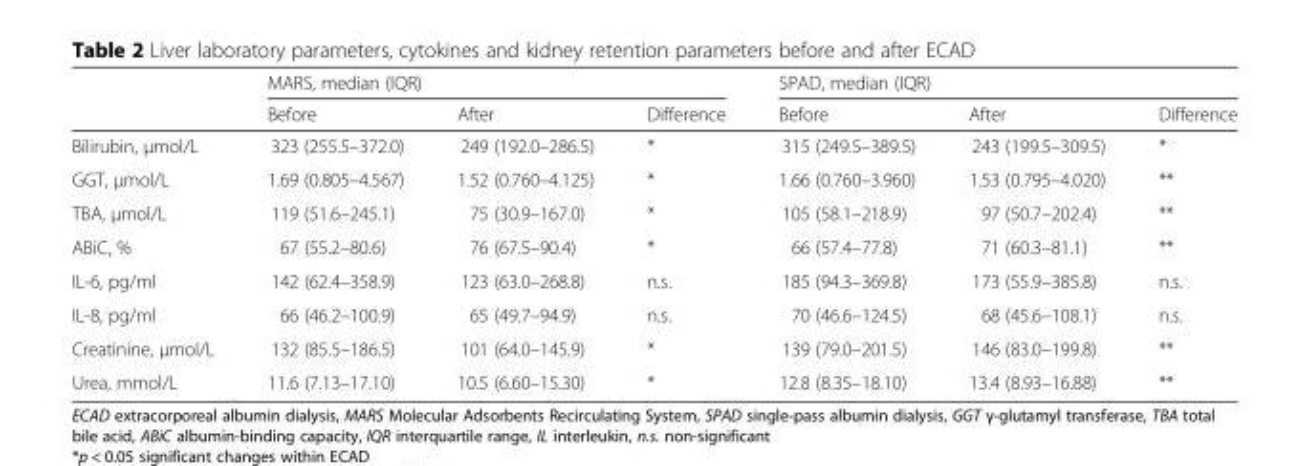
<table><thead><tr><td rowspan="2"></td><td colspan="3">MARS, median (IQR)</td><td colspan="3">SPAD, median (IQR)</td></tr><tr><td>Before</td><td>After</td><td>Difference</td><td>Before</td><td>After</td><td>Difference</td></tr></thead><tbody><tr><td>Bilirubin, μmol/L</td><td>323 (255.5–372.0)</td><td>249 (192.0–286.5)</td><td>*</td><td>315 (249.5–389.5)</td><td>243 (199.5–309.5)</td><td>*</td></tr><tr><td>GGT, μmol/L</td><td>1.69 (0.805–4.567)</td><td>1.52 (0.760–4.125)</td><td>*</td><td>1.66 (0.760–3.960)</td><td>1.53 (0.795–4.020)</td><td>**</td></tr><tr><td>TBA, μmol/L</td><td>119 (51.6–245.1)</td><td>75 (30.9–167.0)</td><td>*</td><td>105 (58.1–218.9)</td><td>97 (50.7–202.4)</td><td>**</td></tr><tr><td>ABiC, %</td><td>67 (55.2–80.6)</td><td>76 (67.5–90.4)</td><td>*</td><td>66 (57.4–77.8)</td><td>71 (60.3–81.1)</td><td>**</td></tr><tr><td>IL-6, pg/ml</td><td>142 (62.4–358.9)</td><td>123 (63.0–268.8)</td><td>n.s.</td><td>185 (94.3–369.8)</td><td>173 (55.9–385.8)</td><td>n.s.</td></tr><tr><td>IL-8, pg/ml</td><td>66 (46.2–100.9)</td><td>65 (49.7–94.9)</td><td>n.s.</td><td>70 (46.6–124.5)</td><td>68 (45.6–108.1)</td><td>n.s.</td></tr><tr><td>Creatinine, μmol/L</td><td>132 (85.5–186.5)</td><td>101 (64.0–145.9)</td><td>*</td><td>139 (79.0–201.5)</td><td>146 (83.0–199.8)</td><td>**</td></tr><tr><td>Urea, mmol/L</td><td>11.6 (7.13–17.10)</td><td>10.5 (6.60–15.30)</td><td>*</td><td>12.8 (8.35–18.10)</td><td>13.4 (8.93–16.88)</td><td>**</td></tr></tbody></table>